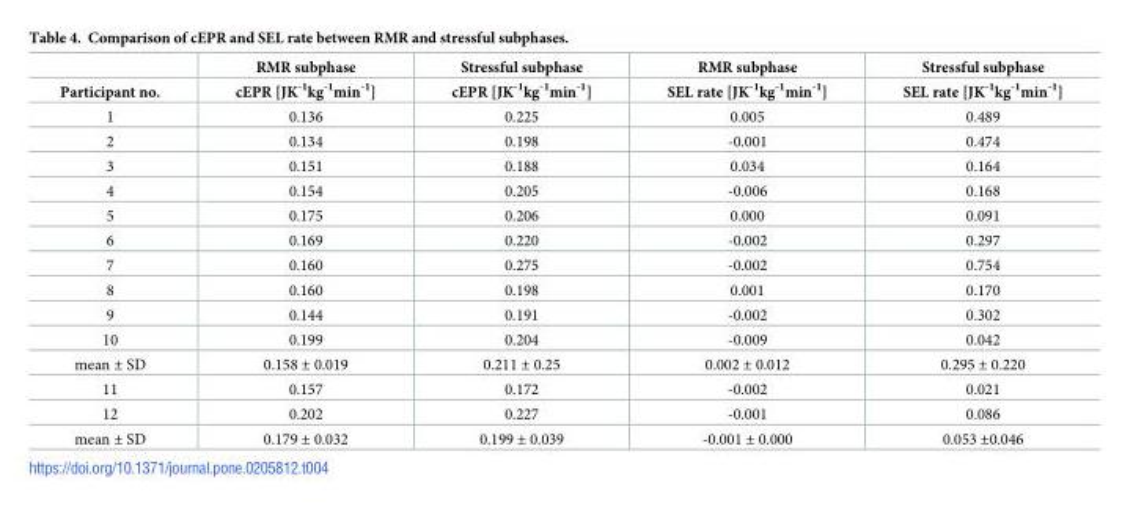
<table><thead><tr><td rowspan="2">Participant no.</td><td rowspan="2">RMR subphase cEPR [JK<sup>-1</sup>kg<sup>-1</sup>min<sup>-1</sup>]</td><td rowspan="2">Stressful subphase cEPR [JK<sup>-1</sup>kg<sup>-1</sup>min<sup>-1</sup>]</td><td rowspan="2">RMR subphase SEL rate [JK<sup>-1</sup>kg<sup>-1</sup>min<sup>-1</sup>]</td><td rowspan="2">Stressful subphase SEL rate [JK<sup>-1</sup>kg<sup>-1</sup>min<sup>-1</sup>]</td></tr><tr></tr></thead><tbody><tr><td>1</td><td>0.136</td><td>0.225</td><td>0.005</td><td>0.489</td></tr><tr><td>2</td><td>0.134</td><td>0.198</td><td>-0.001</td><td>0.474</td></tr><tr><td>3</td><td>0.151</td><td>0.188</td><td>0.034</td><td>0.164</td></tr><tr><td>4</td><td>0.154</td><td>0.205</td><td>-0.006</td><td>0.168</td></tr><tr><td>5</td><td>0.175</td><td>0.206</td><td>0.000</td><td>0.091</td></tr><tr><td>6</td><td>0.169</td><td>0.220</td><td>-0.002</td><td>0.297</td></tr><tr><td>7</td><td>0.160</td><td>0.275</td><td>-0.002</td><td>0.754</td></tr><tr><td>8</td><td>0.160</td><td>0.198</td><td>0.001</td><td>0.170</td></tr><tr><td>9</td><td>0.144</td><td>0.191</td><td>-0.002</td><td>0.302</td></tr><tr><td>10</td><td>0.199</td><td>0.204</td><td>-0.009</td><td>0.042</td></tr><tr><td>mean ± SD</td><td>0.158 ± 0.019</td><td>0.211 ± 0.25</td><td>0.002 ± 0.012</td><td>0.295 ± 0.220</td></tr><tr><td>11</td><td>0.157</td><td>0.172</td><td>-0.002</td><td>0.021</td></tr><tr><td>12</td><td>0.202</td><td>0.227</td><td>-0.001</td><td>0.086</td></tr><tr><td>mean ± SD</td><td>0.179 ± 0.032</td><td>0.199 ± 0.039</td><td>-0.001 ± 0.000</td><td>0.053 ±0.046</td></tr></tbody></table>